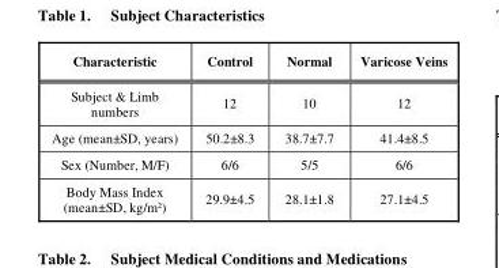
<table><thead><tr><td>Characteristic</td><td>Control</td><td>Normal</td><td>Varicose Veins</td></tr></thead><tbody><tr><td>Subject &amp; Limb numbers</td><td>12</td><td>10</td><td>12</td></tr><tr><td>Age (mean±SD, years)</td><td>50.2±8.3</td><td>38.7±7.7</td><td>41.4±8.5</td></tr><tr><td>Sex (Number, M/F)</td><td>6/6</td><td>5/5</td><td>6/6</td></tr><tr><td>Body Mass Index (mean±SD, kg/m<sup>2</sup>)</td><td>29.9±4.5</td><td>28.1±1.8</td><td>27.1±4.5</td></tr></tbody></table>